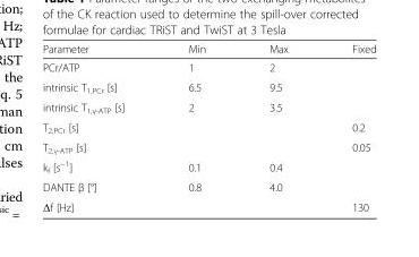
<table><thead><tr><td>Parameter</td><td>Min</td><td>Max</td><td>Fixed</td></tr></thead><tbody><tr><td>PCr/ATP</td><td>1</td><td>2</td><td></td></tr><tr><td>intrinsic T<sub>1,PCr</sub> [s]</td><td>6.5</td><td>9.5</td><td></td></tr><tr><td>intrinsic T<sub>1,γ-ATP</sub> [s]</td><td>2</td><td>3.5</td><td></td></tr><tr><td>T<sub>2,PCr</sub> [s]</td><td></td><td></td><td>0.2</td></tr><tr><td>T<sub>2,γ-ATP</sub> [s]</td><td></td><td></td><td>0.05</td></tr><tr><td>k<sub>f</sub> [s<sup>−1</sup>]</td><td>0.1</td><td>0.4</td><td></td></tr><tr><td>DANTE β [°]</td><td>0.8</td><td>4.0</td><td></td></tr><tr><td>Δf [Hz]</td><td></td><td></td><td>130</td></tr></tbody></table>